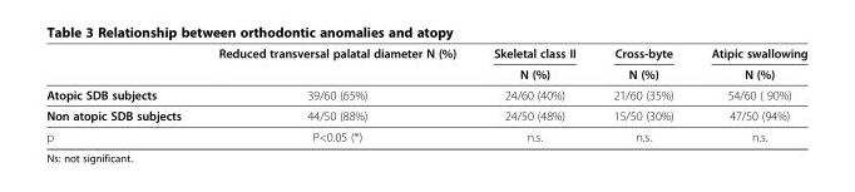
<table><thead><tr><td rowspan="2"></td><td rowspan="2">Reduced transversal palatal diameter N (%)</td><td rowspan="2">Skeletal class II N (%)</td><td rowspan="2">Cross-byte N (%)</td><td rowspan="2">Atipic swallowing N (%)</td></tr><tr></tr></thead><tbody><tr><td>Atopic SDB subjects</td><td>39/60 (65%)</td><td>24/60 (40%)</td><td>21/60 (35%)</td><td>54/60 ( 90%)</td></tr><tr><td>Non atopic SDB subjects</td><td>44/50 (88%)</td><td>24/50 (48%)</td><td>15/50 (30%)</td><td>47/50 (94%)</td></tr><tr><td>p</td><td>P&lt;0.05 (*)</td><td>n.s.</td><td>n.s.</td><td>n.s.</td></tr></tbody></table>